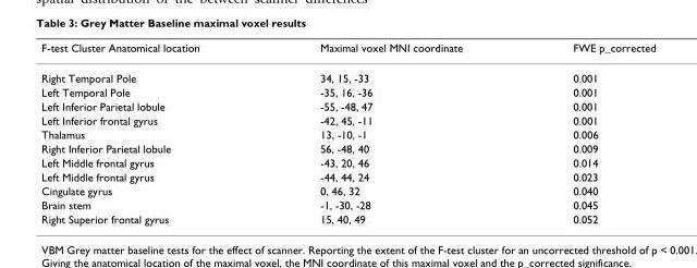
<table><thead><tr><td>F-test Cluster Anatomical location</td><td>Maximal voxel MNI coordinate</td><td>FWE p_corrected</td></tr></thead><tbody><tr><td>Right Temporal Pole</td><td>34, 15, -33</td><td>0.001</td></tr><tr><td>Left Temporal Pole</td><td>-35, 16, -36</td><td>0.001</td></tr><tr><td>Left Inferior Parietal lobule</td><td>-55, -48, 47</td><td>0.001</td></tr><tr><td>Left Inferior frontal gyrus</td><td>-42, 45, -11</td><td>0.001</td></tr><tr><td>Thalamus</td><td>13, -10, -1</td><td>0.006</td></tr><tr><td>Right Inferior Parietal lobule</td><td>56, -48, 40</td><td>0.009</td></tr><tr><td>Left Middle frontal gyrus</td><td>-43, 20, 46</td><td>0.014</td></tr><tr><td>Left Middle frontal gyrus</td><td>-44, 44, 24</td><td>0.023</td></tr><tr><td>Cingulate gyrus</td><td>0, 46, 32</td><td>0.040</td></tr><tr><td>Brain stem</td><td>-1, -30, -28</td><td>0.045</td></tr><tr><td>Right Superior frontal gyrus</td><td>15, 40, 49</td><td>0.052</td></tr></tbody></table>